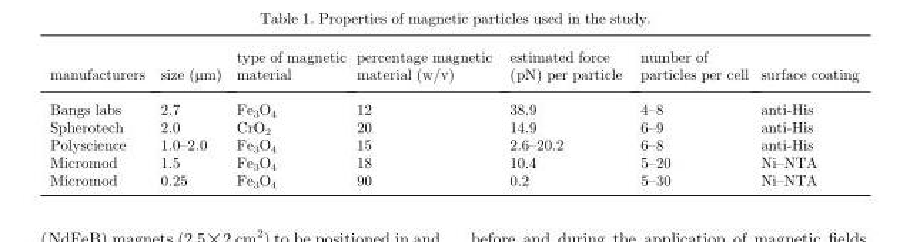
<table><thead><tr><td>manufacturers</td><td>size (μm)</td><td>type of magnetic material</td><td>percentage magnetic material (w/v)</td><td>estimated force (pN) per particle</td><td>number of particles per cell</td><td>surface coating</td></tr></thead><tbody><tr><td>Bangs labs</td><td>2.7</td><td>Fe3O4</td><td>12</td><td>38.9</td><td>4–8</td><td>anti-His</td></tr><tr><td>Spherotech</td><td>2.0</td><td>CrO2</td><td>20</td><td>14.9</td><td>6–9</td><td>anti-His</td></tr><tr><td>Polyscience</td><td>1.0–2.0</td><td>Fe3O4</td><td>15</td><td>2.6–20.2</td><td>6–8</td><td>anti-His</td></tr><tr><td>Micromod</td><td>1.5</td><td>Fe3O4</td><td>18</td><td>10.4</td><td>5–20</td><td>Ni–NTA</td></tr><tr><td>Micromod</td><td>0.25</td><td>Fe3O4</td><td>90</td><td>0.2</td><td>5–30</td><td>Ni–NTA</td></tr></tbody></table>